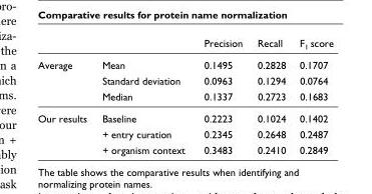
<table><thead><tr><td></td><td></td><td>Precision</td><td>Recall</td><td>F<sub>1</sub> score</td></tr></thead><tbody><tr><td rowspan="3">Average</td><td>Mean</td><td>0.1495</td><td>0.2828</td><td>0.1707</td></tr><tr><td>Standard deviation</td><td>0.0963</td><td>0.1294</td><td>0.0764</td></tr><tr><td>Median</td><td>0.1337</td><td>0.2723</td><td>0.1683</td></tr><tr><td rowspan="3">Our results</td><td>Baseline</td><td>0.2223</td><td>0.1024</td><td>0.1402</td></tr><tr><td>+ entry curation</td><td>0.2345</td><td>0.2648</td><td>0.2487</td></tr><tr><td>+ organism context</td><td>0.3483</td><td>0.2410</td><td>0.2849</td></tr></tbody></table>